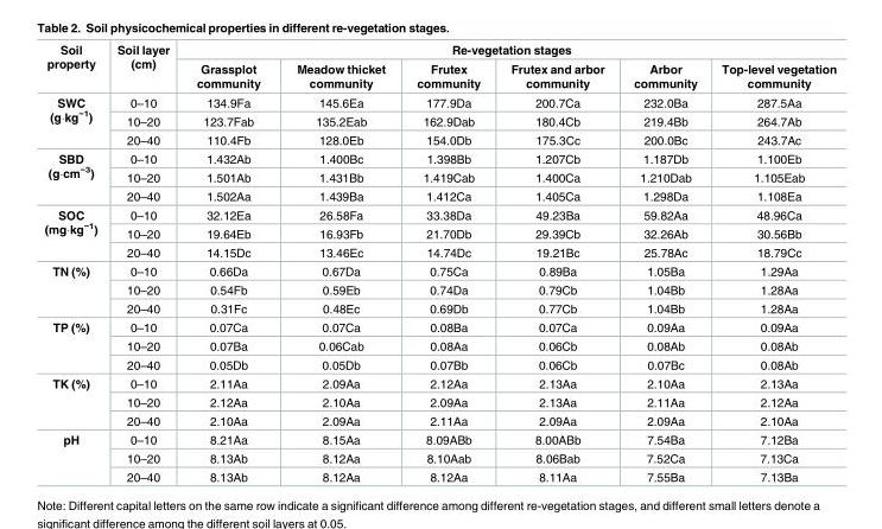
<table><thead><tr><td rowspan="2">Soil property</td><td rowspan="2">Soil layer (cm)</td><td colspan="6">Re-vegetation stages</td></tr><tr><td>Grassplot community</td><td>Meadow thicket community</td><td>Frutex community</td><td>Frutex and arbor community</td><td>Arbor community</td><td>Top-level vegetation community</td></tr></thead><tbody><tr><td rowspan="3">SWC (g∙kg<sup>−1</sup>)</td><td>0–10</td><td>134.9Fa</td><td>145.6Ea</td><td>177.9Da</td><td>200.7Ca</td><td>232.0Ba</td><td>287.5Aa</td></tr><tr><td>10–20</td><td>123.7Fab</td><td>135.2Eab</td><td>162.9Dab</td><td>180.4Cb</td><td>219.4Bb</td><td>264.7Ab</td></tr><tr><td>20–40</td><td>110.4Fb</td><td>128.0Eb</td><td>154.0Db</td><td>175.3Cc</td><td>200.0Bc</td><td>243.7Ac</td></tr><tr><td rowspan="3">SBD (g∙cm<sup>−3</sup>)</td><td>0–10</td><td>1.432Ab</td><td>1.400Bc</td><td>1.398Bb</td><td>1.207Cb</td><td>1.187Db</td><td>1.100Eb</td></tr><tr><td>10–20</td><td>1.501Ab</td><td>1.431Bb</td><td>1.419Cab</td><td>1.400Ca</td><td>1.210Dab</td><td>1.105Eab</td></tr><tr><td>20–40</td><td>1.502Aa</td><td>1.439Ba</td><td>1.412Ca</td><td>1.405Ca</td><td>1.298Da</td><td>1.108Ea</td></tr><tr><td rowspan="3">SOC (mg∙kg<sup>−1</sup>)</td><td>0–10</td><td>32.12Ea</td><td>26.58Fa</td><td>33.38Da</td><td>49.23Ba</td><td>59.82Aa</td><td>48.96Ca</td></tr><tr><td>10–20</td><td>19.64Eb</td><td>16.93Fb</td><td>21.70Db</td><td>29.39Cb</td><td>32.26Ab</td><td>30.56Bb</td></tr><tr><td>20–40</td><td>14.15Dc</td><td>13.46Ec</td><td>14.74Dc</td><td>19.21Bc</td><td>25.78Ac</td><td>18.79Cc</td></tr><tr><td rowspan="3">TN (%)</td><td>0–10</td><td>0.66Da</td><td>0.67Da</td><td>0.75Ca</td><td>0.89Ba</td><td>1.05Ba</td><td>1.29Aa</td></tr><tr><td>10–20</td><td>0.54Fb</td><td>0.59Eb</td><td>0.74Da</td><td>0.79Cb</td><td>1.04Bb</td><td>1.28Aa</td></tr><tr><td>20–40</td><td>0.31Fc</td><td>0.48Ec</td><td>0.69Db</td><td>0.77Cb</td><td>1.04Bb</td><td>1.28Aa</td></tr><tr><td rowspan="3">TP (%)</td><td>0–10</td><td>0.07Ca</td><td>0.07Ca</td><td>0.08Ba</td><td>0.07Ca</td><td>0.09Aa</td><td>0.09Aa</td></tr><tr><td>10–20</td><td>0.07Ba</td><td>0.06Cab</td><td>0.08Aa</td><td>0.06Cb</td><td>0.08Ab</td><td>0.08Ab</td></tr><tr><td>20–40</td><td>0.05Db</td><td>0.05Db</td><td>0.07Bb</td><td>0.06Cb</td><td>0.07Bc</td><td>0.08Ab</td></tr><tr><td rowspan="3">TK (%)</td><td>0–10</td><td>2.11Aa</td><td>2.09Aa</td><td>2.12Aa</td><td>2.13Aa</td><td>2.10Aa</td><td>2.13Aa</td></tr><tr><td>10–20</td><td>2.12Aa</td><td>2.10Aa</td><td>2.09Aa</td><td>2.13Aa</td><td>2.11Aa</td><td>2.12Aa</td></tr><tr><td>20–40</td><td>2.10Aa</td><td>2.09Aa</td><td>2.11Aa</td><td>2.09Aa</td><td>2.09Aa</td><td>2.10Aa</td></tr><tr><td rowspan="3">pH</td><td>0–10</td><td>8.21Aa</td><td>8.15Aa</td><td>8.09ABb</td><td>8.00ABb</td><td>7.54Ba</td><td>7.12Ba</td></tr><tr><td>10–20</td><td>8.13Ab</td><td>8.12Aa</td><td>8.10Aab</td><td>8.06Bab</td><td>7.52Ca</td><td>7.13Ca</td></tr><tr><td>20–40</td><td>8.13Ab</td><td>8.12Aa</td><td>8.12Aa</td><td>8.11Aa</td><td>7.55Ba</td><td>7.13Ba</td></tr></tbody></table>